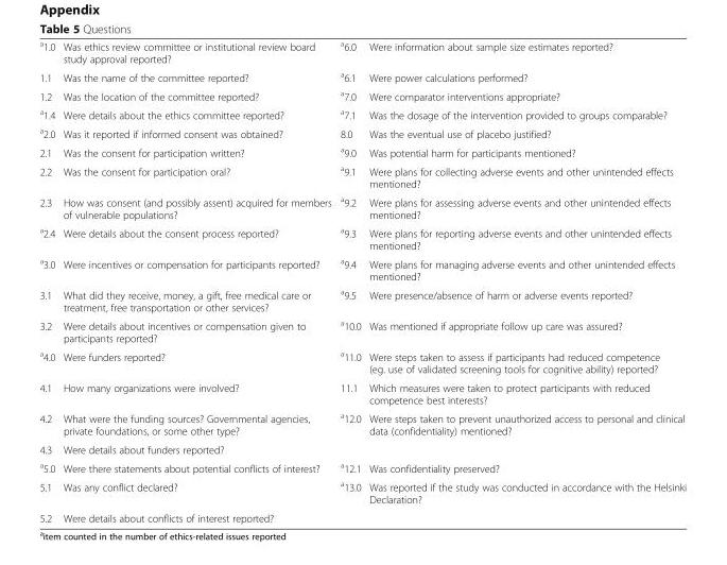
<table><tbody><tr><td><sup>a</sup>1.0</td><td>Was ethics review committee or institutional review board study approval reported?</td><td><sup>a</sup>6.0</td><td>Were information about sample size estimates reported?</td></tr><tr><td>1.1</td><td>Was the name of the committee reported?</td><td><sup>a</sup>6.1</td><td>Were power calculations performed?</td></tr><tr><td>1.2</td><td>Was the location of the committee reported?</td><td><sup>a</sup>7.0</td><td>Were comparator interventions appropriate?</td></tr><tr><td><sup>a</sup>1.4</td><td>Were details about the ethics committee reported?</td><td><sup>a</sup>7.1</td><td>Was the dosage of the intervention provided to groups comparable?</td></tr><tr><td><sup>a</sup>2.0</td><td>Was it reported if informed consent was obtained?</td><td>8.0</td><td>Was the eventual use of placebo justified?</td></tr><tr><td>2.1</td><td>Was the consent for participation written?</td><td><sup>a</sup>9.0</td><td>Was potential harm for participants mentioned?</td></tr><tr><td>2.2</td><td>Was the consent for participation oral?</td><td><sup>a</sup>9.1</td><td>Were plans for collecting adverse events and other unintended effects mentioned?</td></tr><tr><td>2.3</td><td>How was consent (and possibly assent) acquired for members of vulnerable populations?</td><td><sup>a</sup>9.2</td><td>Were plans for assessing adverse events and other unintended effects mentioned?</td></tr><tr><td><sup>a</sup>2.4</td><td>Were details about the consent process reported?</td><td><sup>a</sup>9.3</td><td>Were plans for reporting adverse events and other unintended effects mentioned?</td></tr><tr><td><sup>a</sup>3.0</td><td>Were incentives or compensation for participants reported?</td><td><sup>a</sup>9.4</td><td>Were plans for managing adverse events and other unintended effects mentioned?</td></tr><tr><td>3.1</td><td>What did they receive, money, a gift, free medical care or treatment, free transportation or other services?</td><td><sup>a</sup>9.5</td><td>Were presence/absence of harm or adverse events reported?</td></tr><tr><td>3.2</td><td>Were details about incentives or compensation given to participants reported?</td><td><sup>a</sup>10.0</td><td>Was mentioned if appropriate follow up care was assured?</td></tr><tr><td><sup>a</sup>4.0</td><td>Were funders reported?</td><td><sup>a</sup>11.0</td><td>Were steps taken to assess if participants had reduced competence (eg. use of validated screening tools for cognitive ability) reported?</td></tr><tr><td>4.1</td><td>How many organizations were involved?</td><td>11.1</td><td>Which measures were taken to protect participants with reduced competence best interests?</td></tr><tr><td>4.2</td><td>What were the funding sources? Governmental agencies, private foundations, or some other type?</td><td><sup>a</sup>12.0</td><td>Were steps taken to prevent unauthorized access to personal and clinical data (confidentiality) mentioned?</td></tr><tr><td>4.3</td><td>Were details about funders reported?</td><td></td><td></td></tr><tr><td><sup>a</sup>5.0</td><td>Were there statements about potential conflicts of interest?</td><td><sup>a</sup>12.1</td><td>Was confidentiality preserved?</td></tr><tr><td>5.1</td><td>Was any conflict declared?</td><td><sup>a</sup>13.0</td><td>Was reported if the study was conducted in accordance with the Helsinki Declaration?</td></tr><tr><td>5.2</td><td>Were details about conflicts of interest reported?</td><td></td><td></td></tr></tbody></table>